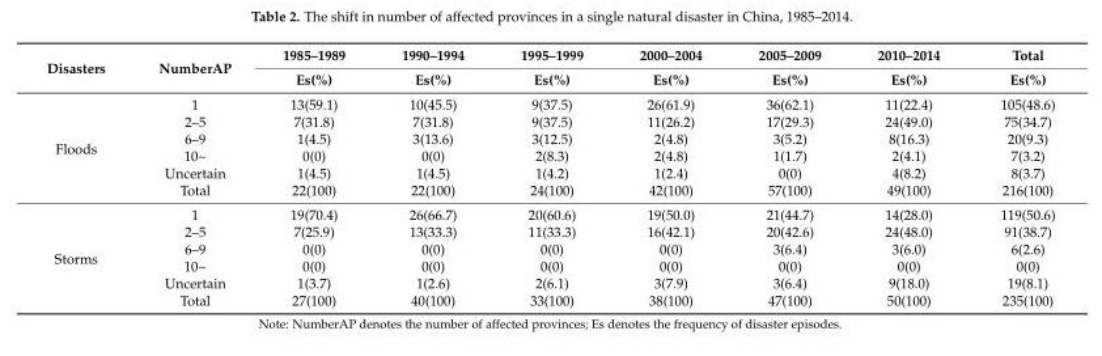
<table><thead><tr><td rowspan="2">Disasters</td><td rowspan="2">NumberAP</td><td rowspan="2">1985–1989 Es(%)</td><td rowspan="2">1990–1994 Es(%)</td><td rowspan="2">1995–1999 Es(%)</td><td rowspan="2">2000–2004 Es(%)</td><td rowspan="2">2005–2009 Es(%)</td><td rowspan="2">2010–2014 Es(%)</td><td rowspan="2">Total Es(%)</td></tr><tr></tr></thead><tbody><tr><td rowspan="6">Floods</td><td>1</td><td>13(59.1)</td><td>10(45.5)</td><td>9(37.5)</td><td>26(61.9)</td><td>36(62.1)</td><td>11(22.4)</td><td>105(48.6)</td></tr><tr><td>2–5</td><td>7(31.8)</td><td>7(31.8)</td><td>9(37.5)</td><td>11(26.2)</td><td>17(29.3)</td><td>24(49.0)</td><td>75(34.7)</td></tr><tr><td>6–9</td><td>1(4.5)</td><td>3(13.6)</td><td>3(12.5)</td><td>2(4.8)</td><td>3(5.2)</td><td>8(16.3)</td><td>20(9.3)</td></tr><tr><td>10~</td><td>0(0)</td><td>0(0)</td><td>2(8.3)</td><td>2(4.8)</td><td>1(1.7)</td><td>2(4.1)</td><td>7(3.2)</td></tr><tr><td>Uncertain</td><td>1(4.5)</td><td>1(4.5)</td><td>1(4.2)</td><td>1(2.4)</td><td>0(0)</td><td>4(8.2)</td><td>8(3.7)</td></tr><tr><td>Total</td><td>22(100)</td><td>22(100)</td><td>24(100)</td><td>42(100)</td><td>57(100)</td><td>49(100)</td><td>216(100)</td></tr><tr><td rowspan="6">Storms</td><td>1</td><td>19(70.4)</td><td>26(66.7)</td><td>20(60.6)</td><td>19(50.0)</td><td>21(44.7)</td><td>14(28.0)</td><td>119(50.6)</td></tr><tr><td>2–5</td><td>7(25.9)</td><td>13(33.3)</td><td>11(33.3)</td><td>16(42.1)</td><td>20(42.6)</td><td>24(48.0)</td><td>91(38.7)</td></tr><tr><td>6–9</td><td>0(0)</td><td>0(0)</td><td>0(0)</td><td>0(0)</td><td>3(6.4)</td><td>3(6.0)</td><td>6(2.6)</td></tr><tr><td>10~</td><td>0(0)</td><td>0(0)</td><td>0(0)</td><td>0(0)</td><td>0(0)</td><td>0(0)</td><td>0(0)</td></tr><tr><td>Uncertain</td><td>1(3.7)</td><td>1(2.6)</td><td>2(6.1)</td><td>3(7.9)</td><td>3(6.4)</td><td>9(18.0)</td><td>19(8.1)</td></tr><tr><td>Total</td><td>27(100)</td><td>40(100)</td><td>33(100)</td><td>38(100)</td><td>47(100)</td><td>50(100)</td><td>235(100)</td></tr></tbody></table>